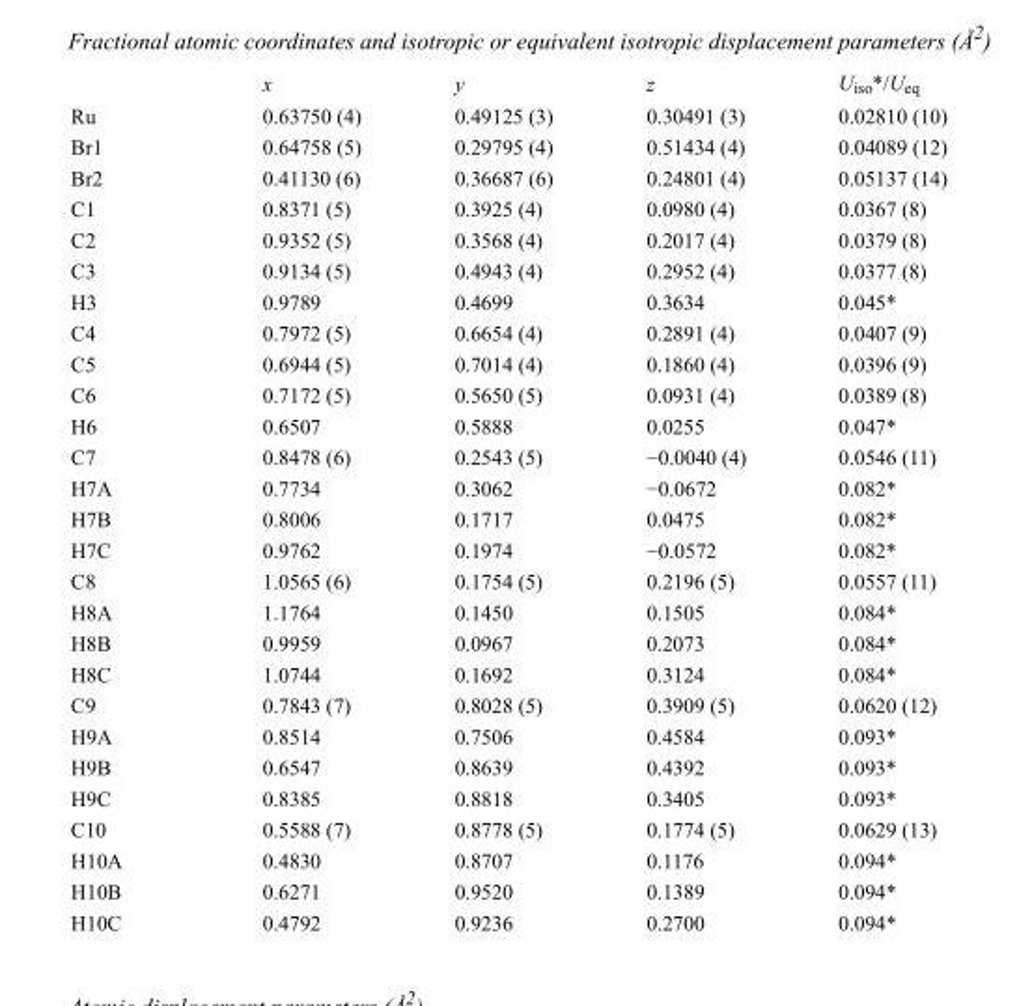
<table><thead><tr><td></td><td>x</td><td>y</td><td>z</td><td>U<sub>iso</sub>*/U<sub>eq</sub></td></tr></thead><tbody><tr><td>Ru</td><td>0.63750 (4)</td><td>0.49125 (3)</td><td>0.30491 (3)</td><td>0.02810 (10)</td></tr><tr><td>Br1</td><td>0.64758 (5)</td><td>0.29795 (4)</td><td>0.51434 (4)</td><td>0.04089 (12)</td></tr><tr><td>Br2</td><td>0.41130 (6)</td><td>0.36687 (6)</td><td>0.24801 (4)</td><td>0.05137 (14)</td></tr><tr><td>C1</td><td>0.8371 (5)</td><td>0.3925 (4)</td><td>0.0980 (4)</td><td>0.0367 (8)</td></tr><tr><td>C2</td><td>0.9352 (5)</td><td>0.3568 (4)</td><td>0.2017 (4)</td><td>0.0379 (8)</td></tr><tr><td>C3</td><td>0.9134 (5)</td><td>0.4943 (4)</td><td>0.2952 (4)</td><td>0.0377 (8)</td></tr><tr><td>H3</td><td>0.9789</td><td>0.4699</td><td>0.3634</td><td>0.045*</td></tr><tr><td>C4</td><td>0.7972 (5)</td><td>0.6654 (4)</td><td>0.2891 (4)</td><td>0.0407 (9)</td></tr><tr><td>C5</td><td>0.6944 (5)</td><td>0.7014 (4)</td><td>0.1860 (4)</td><td>0.0396 (9)</td></tr><tr><td>C6</td><td>0.7172 (5)</td><td>0.5650 (5)</td><td>0.0931 (4)</td><td>0.0389 (8)</td></tr><tr><td>H6</td><td>0.6507</td><td>0.5888</td><td>0.0255</td><td>0.047*</td></tr><tr><td>C7</td><td>0.8478 (6)</td><td>0.2543 (5)</td><td>−0.0040 (4)</td><td>0.0546 (11)</td></tr><tr><td>H7A</td><td>0.7734</td><td>0.3062</td><td>−0.0672</td><td>0.082*</td></tr><tr><td>H7B</td><td>0.8006</td><td>0.1717</td><td>0.0475</td><td>0.082*</td></tr><tr><td>H7C</td><td>0.9762</td><td>0.1974</td><td>−0.0572</td><td>0.082*</td></tr><tr><td>C8</td><td>1.0565 (6)</td><td>0.1754 (5)</td><td>0.2196 (5)</td><td>0.0557 (11)</td></tr><tr><td>H8A</td><td>1.1764</td><td>0.1450</td><td>0.1505</td><td>0.084*</td></tr><tr><td>H8B</td><td>0.9959</td><td>0.0967</td><td>0.2073</td><td>0.084*</td></tr><tr><td>H8C</td><td>1.0744</td><td>0.1692</td><td>0.3124</td><td>0.084*</td></tr><tr><td>C9</td><td>0.7843 (7)</td><td>0.8028 (5)</td><td>0.3909 (5)</td><td>0.0620 (12)</td></tr><tr><td>H9A</td><td>0.8514</td><td>0.7506</td><td>0.4584</td><td>0.093*</td></tr><tr><td>H9B</td><td>0.6547</td><td>0.8639</td><td>0.4392</td><td>0.093*</td></tr><tr><td>H9C</td><td>0.8385</td><td>0.8818</td><td>0.3405</td><td>0.093*</td></tr><tr><td>C10</td><td>0.5588 (7)</td><td>0.8778 (5)</td><td>0.1774 (5)</td><td>0.0629 (13)</td></tr><tr><td>H10A</td><td>0.4830</td><td>0.8707</td><td>0.1176</td><td>0.094*</td></tr><tr><td>H10B</td><td>0.6271</td><td>0.9520</td><td>0.1389</td><td>0.094*</td></tr><tr><td>H10C</td><td>0.4792</td><td>0.9236</td><td>0.2700</td><td>0.094*</td></tr></tbody></table>